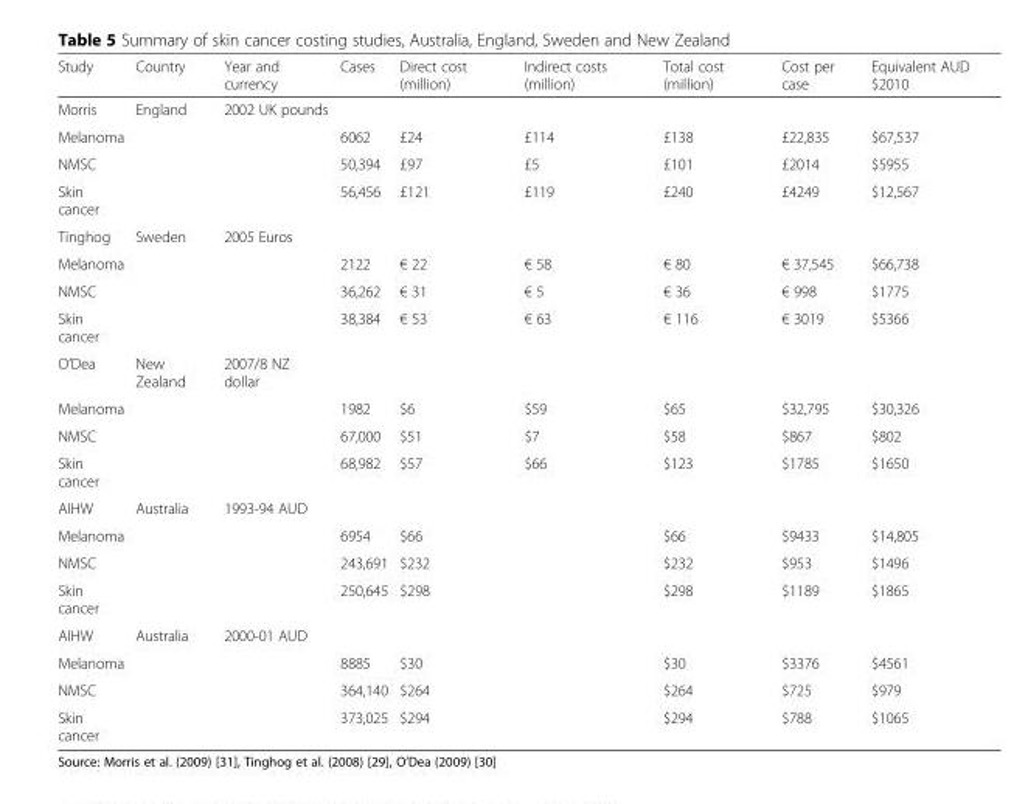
<table><thead><tr><td>Study</td><td>Country</td><td>Year and currency</td><td>Cases</td><td>Direct cost (million)</td><td>Indirect costs (million)</td><td>Total cost (million)</td><td>Cost per case</td><td>Equivalent AUD $2010</td></tr></thead><tbody><tr><td>Morris</td><td>England</td><td>2002 UK pounds</td><td></td><td></td><td></td><td></td><td></td><td></td></tr><tr><td>Melanoma</td><td></td><td></td><td>6062</td><td>£24</td><td>£114</td><td>£138</td><td>£22,835</td><td>$67,537</td></tr><tr><td>NMSC</td><td></td><td></td><td>50,394</td><td>£97</td><td>£5</td><td>£101</td><td>£2014</td><td>$5955</td></tr><tr><td>Skin cancer</td><td></td><td></td><td>56,456</td><td>£121</td><td>£119</td><td>£240</td><td>£4249</td><td>$12,567</td></tr><tr><td>Tinghog</td><td>Sweden</td><td>2005 Euros</td><td></td><td></td><td></td><td></td><td></td><td></td></tr><tr><td>Melanoma</td><td></td><td></td><td>2122</td><td>€ 22</td><td>€ 58</td><td>€ 80</td><td>€ 37,545</td><td>$66,738</td></tr><tr><td>NMSC</td><td></td><td></td><td>36,262</td><td>€ 31</td><td>€ 5</td><td>€ 36</td><td>€ 998</td><td>$1775</td></tr><tr><td>Skin cancer</td><td></td><td></td><td>38,384</td><td>€ 53</td><td>€ 63</td><td>€ 116</td><td>€ 3019</td><td>$5366</td></tr><tr><td>O’Dea</td><td>New Zealand</td><td>2007/8 NZ dollar</td><td></td><td></td><td></td><td></td><td></td><td></td></tr><tr><td>Melanoma</td><td></td><td></td><td>1982</td><td>$6</td><td>$59</td><td>$65</td><td>$32,795</td><td>$30,326</td></tr><tr><td>NMSC</td><td></td><td></td><td>67,000</td><td>$51</td><td>$7</td><td>$58</td><td>$867</td><td>$802</td></tr><tr><td>Skin cancer</td><td></td><td></td><td>68,982</td><td>$57</td><td>$66</td><td>$123</td><td>$1785</td><td>$1650</td></tr><tr><td>AIHW</td><td>Australia</td><td>1993-94 AUD</td><td></td><td></td><td></td><td></td><td></td><td></td></tr><tr><td>Melanoma</td><td></td><td></td><td>6954</td><td>$66</td><td></td><td>$66</td><td>$9433</td><td>$14,805</td></tr><tr><td>NMSC</td><td></td><td></td><td>243,691</td><td>$232</td><td></td><td>$232</td><td>$953</td><td>$1496</td></tr><tr><td>Skin cancer</td><td></td><td></td><td>250,645</td><td>$298</td><td></td><td>$298</td><td>$1189</td><td>$1865</td></tr><tr><td>AIHW</td><td>Australia</td><td>2000-01 AUD</td><td></td><td></td><td></td><td></td><td></td><td></td></tr><tr><td>Melanoma</td><td></td><td></td><td>8885</td><td>$30</td><td></td><td>$30</td><td>$3376</td><td>$4561</td></tr><tr><td>NMSC</td><td></td><td></td><td>364,140</td><td>$264</td><td></td><td>$264</td><td>$725</td><td>$979</td></tr><tr><td>Skin cancer</td><td></td><td></td><td>373,025</td><td>$294</td><td></td><td>$294</td><td>$788</td><td>$1065</td></tr></tbody></table>